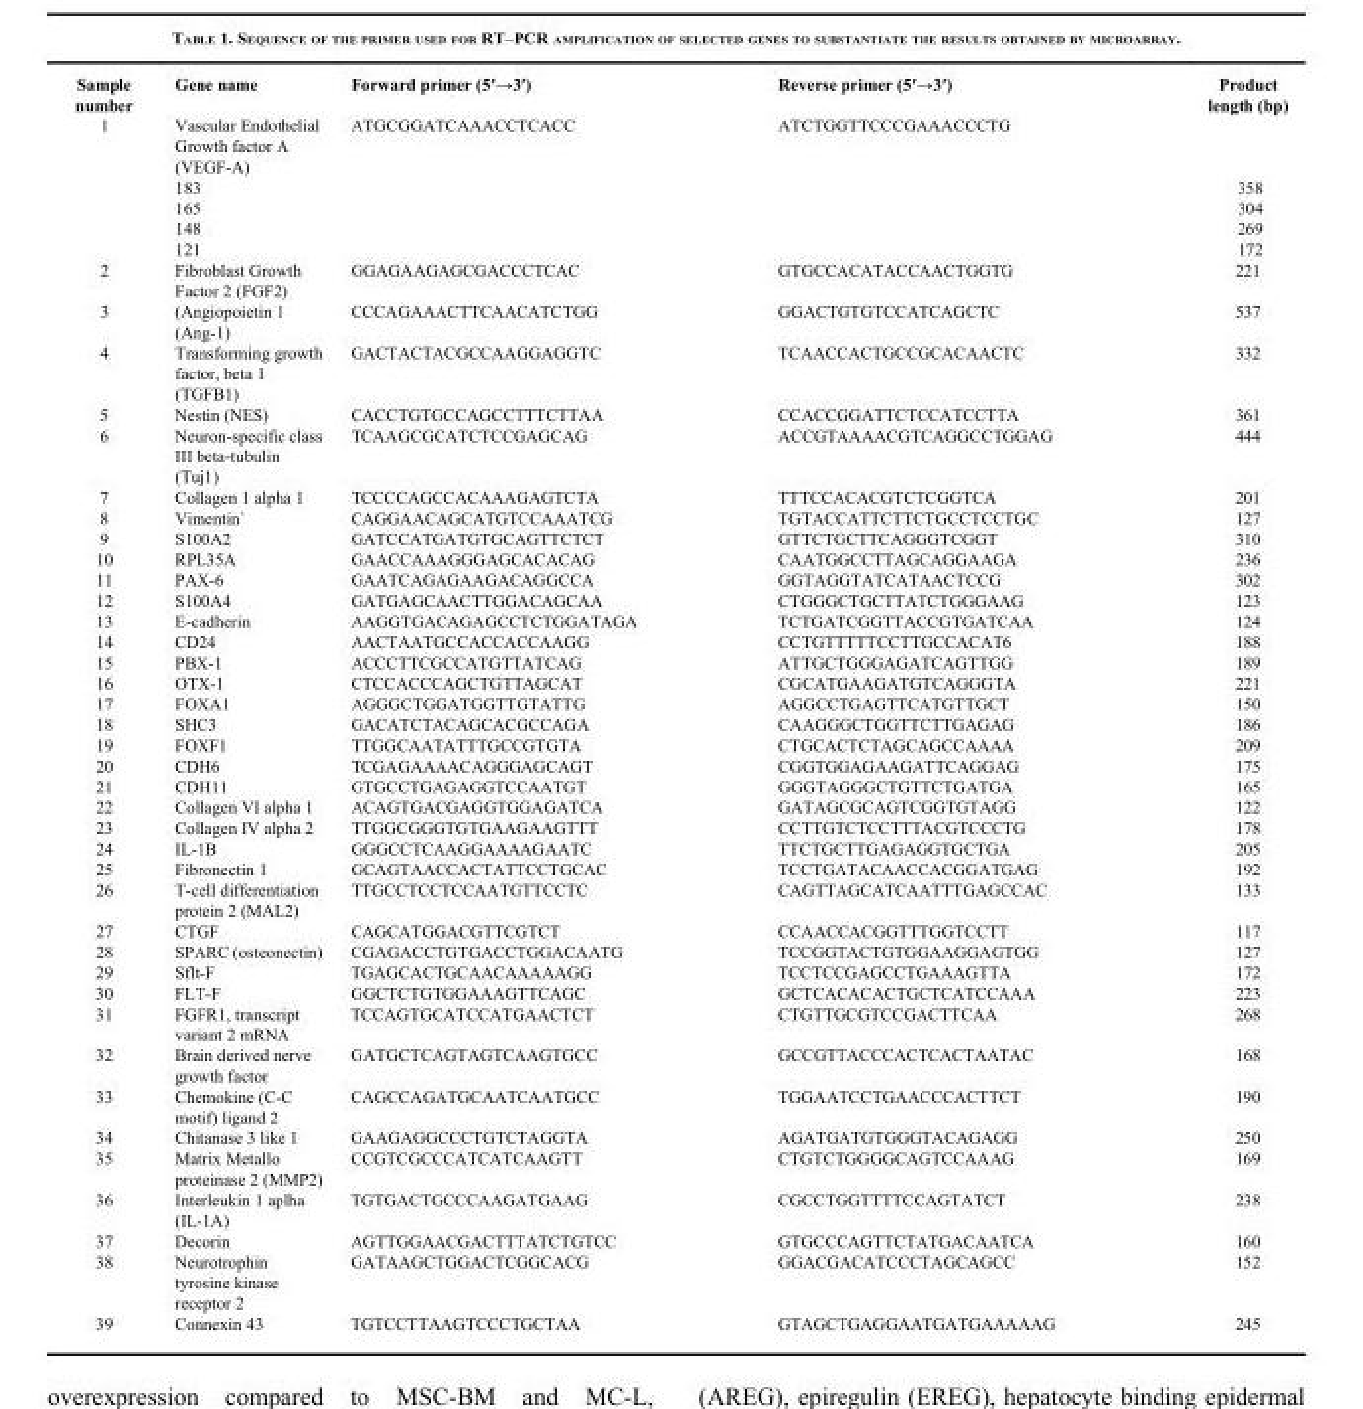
<table><thead><tr><td>Sample number</td><td>Gene name</td><td>Forward primer (5′→3′)</td><td>Reverse primer (5′→3′)</td><td>Product length (bp)</td></tr></thead><tbody><tr><td rowspan="5">1</td><td>Vascular Endothelial Growth factor A (VEGF-A)</td><td>ATGCGGATCAAACCTCACC</td><td>ATCTGGTTCCCGAAACCCTG</td><td></td></tr><tr><td>183</td><td></td><td></td><td>358</td></tr><tr><td>165</td><td></td><td></td><td>304</td></tr><tr><td>148</td><td></td><td></td><td>269</td></tr><tr><td>121</td><td></td><td></td><td>172</td></tr><tr><td>2</td><td>Fibroblast Growth Factor 2 (FGF2)</td><td>GGAGAAGAGCGACCCTCAC</td><td>GTGCCACATACCAACTGGTG</td><td>221</td></tr><tr><td>3</td><td>(Angiopoietin 1 (Ang-1)</td><td>CCCAGAAACTTCAACATCTGG</td><td>GGACTGTGTCCATCAGCTC</td><td>537</td></tr><tr><td>4</td><td>Transforming growth factor, beta 1 (TGFB1)</td><td>GACTACTACGCCAAGGAGGTC</td><td>TCAACCACTGCCGCACAACTC</td><td>332</td></tr><tr><td>5</td><td>Nestin (NES)</td><td>CACCTGTGCCAGCCTTTCTTAA</td><td>CCACCGGATTCTCCATCCTTA</td><td>361</td></tr><tr><td>6</td><td>Neuron-specific class III beta-tubulin (Tuj1)</td><td>TCAAGCGCATCTCCGAGCAG</td><td>ACCGTAAAACGTCAGGCCTGGAG</td><td>444</td></tr><tr><td>7</td><td>Collagen 1 alpha 1</td><td>TCCCCAGCCACAAAGAGTCTA</td><td>TTTCCACACGTCTCGGTCA</td><td>201</td></tr><tr><td>8</td><td>Vimentin`</td><td>CAGGAACAGCATGTCCAAATCG</td><td>TGTACCATTCTTCTGCCTCCTGC</td><td>127</td></tr><tr><td>9</td><td>S100A2</td><td>GATCCATGATGTGCAGTTCTCT</td><td>GTTCTGCTTCAGGGTCGGT</td><td>310</td></tr><tr><td>10</td><td>RPL35A</td><td>GAACCAAAGGGAGCACACAG</td><td>CAATGGCCTTAGCAGGAAGA</td><td>236</td></tr><tr><td>11</td><td>PAX-6</td><td>GAATCAGAGAAGACAGGCCA</td><td>GGTAGGTATCATAACTCCG</td><td>302</td></tr><tr><td>12</td><td>S100A4</td><td>GATGAGCAACTTGGACAGCAA</td><td>CTGGGCTGCTTATCTGGGAAG</td><td>123</td></tr><tr><td>13</td><td>E-cadherin</td><td>AAGGTGACAGAGCCTCTGGATAGA</td><td>TCTGATCGGTTACCGTGATCAA</td><td>124</td></tr><tr><td>14</td><td>CD24</td><td>AACTAATGCCACCACCAAGG</td><td>CCTGTTTTTCCTTGCCACAT6</td><td>188</td></tr><tr><td>15</td><td>PBX-1</td><td>ACCCTTCGCCATGTTATCAG</td><td>ATTGCTGGGAGATCAGTTGG</td><td>189</td></tr><tr><td>16</td><td>OTX-1</td><td>CTCCACCCAGCTGTTAGCAT</td><td>CGCATGAAGATGTCAGGGTA</td><td>221</td></tr><tr><td>17</td><td>FOXA1</td><td>AGGGCTGGATGGTTGTATTG</td><td>AGGCCTGAGTTCATGTTGCT</td><td>150</td></tr><tr><td>18</td><td>SHC3</td><td>GACATCTACAGCACGCCAGA</td><td>CAAGGGCTGGTTCTTGAGAG</td><td>186</td></tr><tr><td>19</td><td>FOXF1</td><td>TTGGCAATATTTGCCGTGTA</td><td>CTGCACTCTAGCAGCCAAAA</td><td>209</td></tr><tr><td>20</td><td>CDH6</td><td>TCGAGAAAACAGGGAGCAGT</td><td>CGGTGGAGAAGATTCAGGAG</td><td>175</td></tr><tr><td>21</td><td>CDH11</td><td>GTGCCTGAGAGGTCCAATGT</td><td>GGGTAGGGCTGTTCTGATGA</td><td>165</td></tr><tr><td>22</td><td>Collagen VI alpha 1</td><td>ACAGTGACGAGGTGGAGATCA</td><td>GATAGCGCAGTCGGTGTAGG</td><td>122</td></tr><tr><td>23</td><td>Collagen IV alpha 2</td><td>TTGGCGGGTGTGAAGAAGTTT</td><td>CCTTGTCTCCTTTACGTCCCTG</td><td>178</td></tr><tr><td>24</td><td>IL-1B</td><td>GGGCCTCAAGGAAAAGAATC</td><td>TTCTGCTTGAGAGGTGCTGA</td><td>205</td></tr><tr><td>25</td><td>Fibronectin 1</td><td>GCAGTAACCACTATTCCTGCAC</td><td>TCCTGATACAACCACGGATGAG</td><td>192</td></tr><tr><td>26</td><td>T-cell differentiation protein 2 (MAL2)</td><td>TTGCCTCCTCCAATGTTCCTC</td><td>CAGTTAGCATCAATTTGAGCCAC</td><td>133</td></tr><tr><td>27</td><td>CTGF</td><td>CAGCATGGACGTTCGTCT</td><td>CCAACCACGGTTTGGTCCTT</td><td>117</td></tr><tr><td>28</td><td>SPARC (osteonectin)</td><td>CGAGACCTGTGACCTGGACAATG</td><td>TCCGGTACTGTGGAAGGAGTGG</td><td>127</td></tr><tr><td>29</td><td>Sflt-F</td><td>TGAGCACTGCAACAAAAAGG</td><td>TCCTCCGAGCCTGAAAGTTA</td><td>172</td></tr><tr><td>30</td><td>FLT-F</td><td>GGCTCTGTGGAAAGTTCAGC</td><td>GCTCACACACTGCTCATCCAAA</td><td>223</td></tr><tr><td>31</td><td>FGFR1, transcript variant 2 mRNA</td><td>TCCAGTGCATCCATGAACTCT</td><td>CTGTTGCGTCCGACTTCAA</td><td>268</td></tr><tr><td>32</td><td>Brain derived nerve growth factor</td><td>GATGCTCAGTAGTCAAGTGCC</td><td>GCCGTTACCCACTCACTAATAC</td><td>168</td></tr><tr><td>33</td><td>Chemokine (C-C motif) ligand 2</td><td>CAGCCAGATGCAATCAATGCC</td><td>TGGAATCCTGAACCCACTTCT</td><td>190</td></tr><tr><td>34</td><td>Chitanase 3 like 1</td><td>GAAGAGGCCCTGTCTAGGTA</td><td>AGATGATGTGGGTACAGAGG</td><td>250</td></tr><tr><td>35</td><td>Matrix Metallo proteinase 2 (MMP2)</td><td>CCGTCGCCCATCATCAAGTT</td><td>CTGTCTGGGGCAGTCCAAAG</td><td>169</td></tr><tr><td>36</td><td>Interleukin 1 aplha (IL-1A)</td><td>TGTGACTGCCCAAGATGAAG</td><td>CGCCTGGTTTTCCAGTATCT</td><td>238</td></tr><tr><td>37</td><td>Decorin</td><td>AGTTGGAACGACTTTATCTGTCC</td><td>GTGCCCAGTTCTATGACAATCA</td><td>160</td></tr><tr><td>38</td><td>Neurotrophin tyrosine kinase receptor 2</td><td>GATAAGCTGGACTCGGCACG</td><td>GGACGACATCCCTAGCAGCC</td><td>152</td></tr><tr><td>39</td><td>Connexin 43</td><td>TGTCCTTAAGTCCCTGCTAA</td><td>GTAGCTGAGGAATGATGAAAAAG</td><td>245</td></tr></tbody></table>